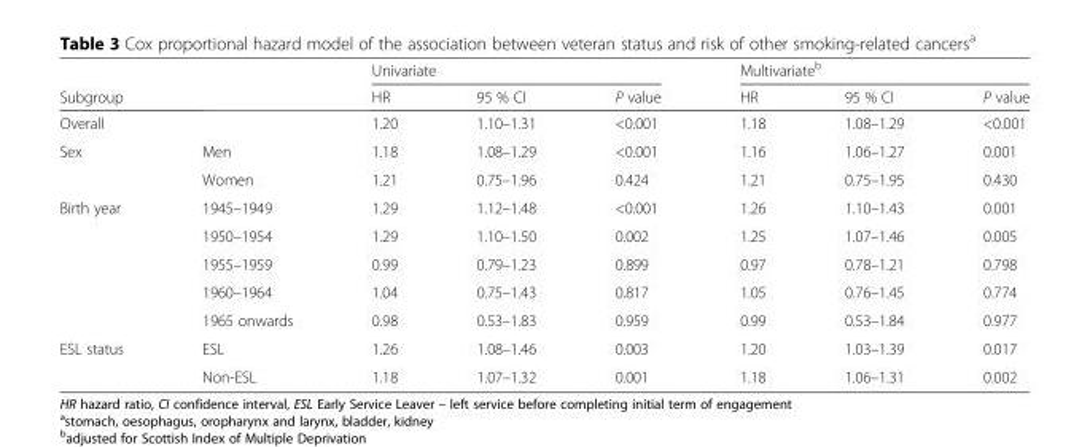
<table><thead><tr><td rowspan="2">Subgroup</td><td rowspan="2"></td><td colspan="3">Univariate</td><td colspan="3">Multivariate<sup>b</sup></td></tr><tr><td>HR</td><td>95 % CI</td><td>P value</td><td>HR</td><td>95 % CI</td><td>P value</td></tr></thead><tbody><tr><td>Overall</td><td></td><td>1.20</td><td>1.10–1.31</td><td>&lt;0.001</td><td>1.18</td><td>1.08–1.29</td><td>&lt;0.001</td></tr><tr><td rowspan="2">Sex</td><td>Men</td><td>1.18</td><td>1.08–1.29</td><td>&lt;0.001</td><td>1.16</td><td>1.06–1.27</td><td>0.001</td></tr><tr><td>Women</td><td>1.21</td><td>0.75–1.96</td><td>0.424</td><td>1.21</td><td>0.75–1.95</td><td>0.430</td></tr><tr><td rowspan="5">Birth year</td><td>1945–1949</td><td>1.29</td><td>1.12–1.48</td><td>&lt;0.001</td><td>1.26</td><td>1.10–1.43</td><td>0.001</td></tr><tr><td>1950–1954</td><td>1.29</td><td>1.10–1.50</td><td>0.002</td><td>1.25</td><td>1.07–1.46</td><td>0.005</td></tr><tr><td>1955–1959</td><td>0.99</td><td>0.79–1.23</td><td>0.899</td><td>0.97</td><td>0.78–1.21</td><td>0.798</td></tr><tr><td>1960–1964</td><td>1.04</td><td>0.75–1.43</td><td>0.817</td><td>1.05</td><td>0.76–1.45</td><td>0.774</td></tr><tr><td>1965 onwards</td><td>0.98</td><td>0.53–1.83</td><td>0.959</td><td>0.99</td><td>0.53–1.84</td><td>0.977</td></tr><tr><td rowspan="2">ESL status</td><td>ESL</td><td>1.26</td><td>1.08–1.46</td><td>0.003</td><td>1.20</td><td>1.03–1.39</td><td>0.017</td></tr><tr><td>Non-ESL</td><td>1.18</td><td>1.07–1.32</td><td>0.001</td><td>1.18</td><td>1.06–1.31</td><td>0.002</td></tr></tbody></table>